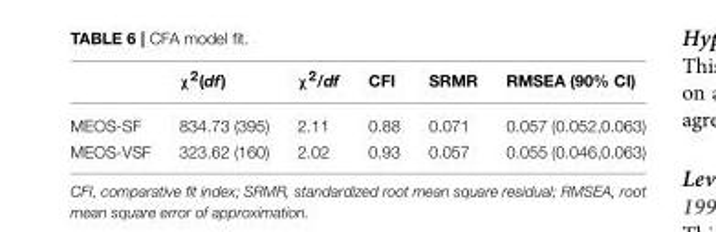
<table><thead><tr><td></td><td>χ<sup>2</sup>(df)</td><td>χ<sup>2</sup>/df</td><td>CFI</td><td>SRMR</td><td>RMSEA (90% CI)</td></tr></thead><tbody><tr><td>MEOS-SF</td><td>834.73 (395)</td><td>2.11</td><td>0.88</td><td>0.071</td><td>0.057 (0.052,0.063)</td></tr><tr><td>MEOS-VSF</td><td>323.62 (160)</td><td>2.02</td><td>0.93</td><td>0.057</td><td>0.055 (0.046,0.063)</td></tr></tbody></table>